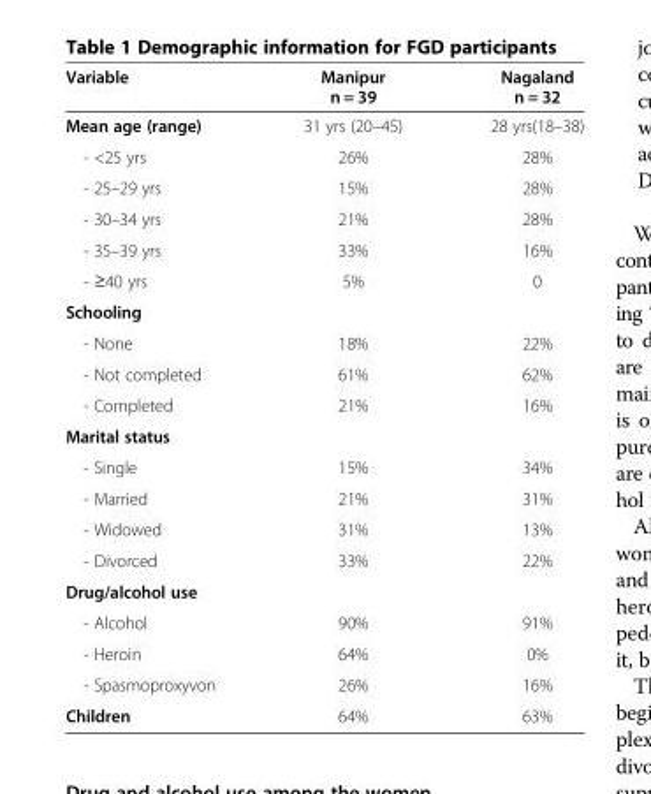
<table><thead><tr><td>Variable</td><td>Manipur n = 39</td><td>Nagaland n = 32</td></tr></thead><tbody><tr><td>Mean age (range)</td><td>31 yrs (20–45)</td><td>28 yrs(18–38)</td></tr><tr><td>- &lt;25 yrs</td><td>26%</td><td>28%</td></tr><tr><td>- 25–29 yrs</td><td>15%</td><td>28%</td></tr><tr><td>- 30–34 yrs</td><td>21%</td><td>28%</td></tr><tr><td>- 35–39 yrs</td><td>33%</td><td>16%</td></tr><tr><td>- ≥40 yrs</td><td>5%</td><td>0</td></tr><tr><td colspan="3">Schooling</td></tr><tr><td>- None</td><td>18%</td><td>22%</td></tr><tr><td>- Not completed</td><td>61%</td><td>62%</td></tr><tr><td>- Completed</td><td>21%</td><td>16%</td></tr><tr><td colspan="3">Marital status</td></tr><tr><td>- Single</td><td>15%</td><td>34%</td></tr><tr><td>- Married</td><td>21%</td><td>31%</td></tr><tr><td>- Widowed</td><td>31%</td><td>13%</td></tr><tr><td>- Divorced</td><td>33%</td><td>22%</td></tr><tr><td colspan="3">Drug/alcohol use</td></tr><tr><td>- Alcohol</td><td>90%</td><td>91%</td></tr><tr><td>- Heroin</td><td>64%</td><td>0%</td></tr><tr><td>- Spasmoproxyvon</td><td>26%</td><td>16%</td></tr><tr><td>Children</td><td>64%</td><td>63%</td></tr></tbody></table>